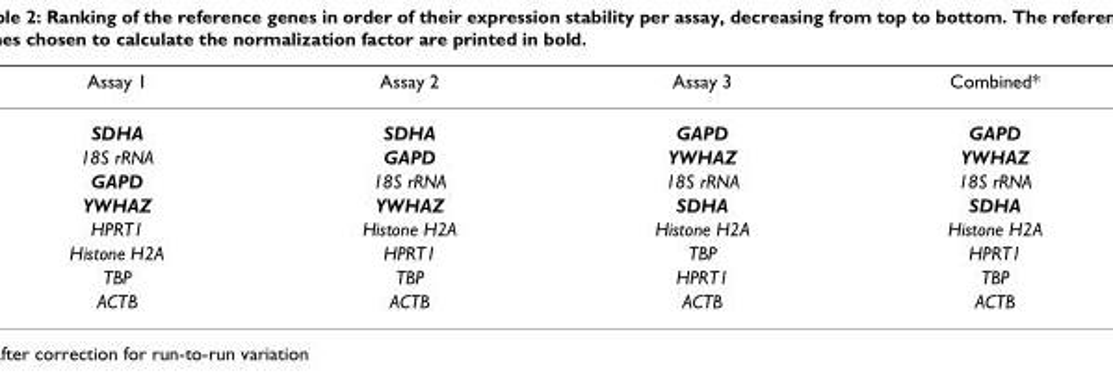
<table><thead><tr><td>Assay 1</td><td>Assay 2</td><td>Assay 3</td><td>Combined*</td></tr></thead><tbody><tr><td>SDHA</td><td>SDHA</td><td>GAPD</td><td>GAPD</td></tr><tr><td>18S rRNA</td><td>GAPD</td><td>YWHAZ</td><td>YWHAZ</td></tr><tr><td>GAPD</td><td>18S rRNA</td><td>18S rRNA</td><td>18S rRNA</td></tr><tr><td>YWHAZ</td><td>YWHAZ</td><td>SDHA</td><td>SDHA</td></tr><tr><td>HPRT1</td><td>Histone H2A</td><td>Histone H2A</td><td>Histone H2A</td></tr><tr><td>Histone H2A</td><td>HPRT1</td><td>TBP</td><td>HPRT1</td></tr><tr><td>TBP</td><td>TBP</td><td>HPRT1</td><td>TBP</td></tr><tr><td>ACTB</td><td>ACTB</td><td>ACTB</td><td>ACTB</td></tr></tbody></table>